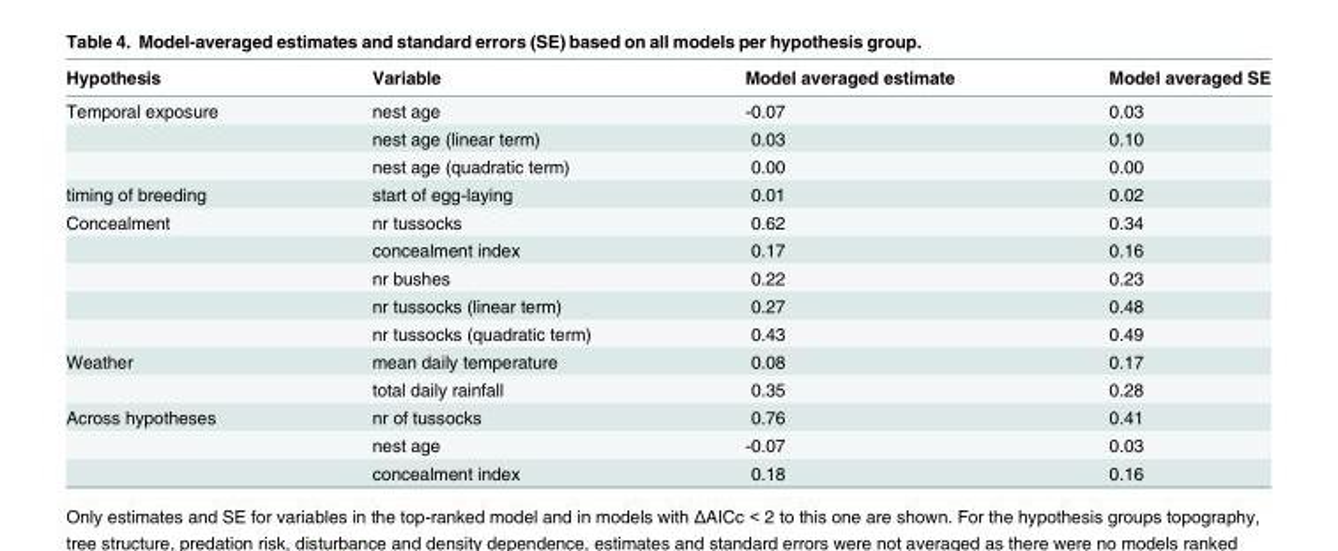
<table><thead><tr><td>Hypothesis</td><td>Variable</td><td>Model averaged estimate</td><td>Model averaged SE</td></tr></thead><tbody><tr><td rowspan="3">Temporal exposure</td><td>nest age</td><td>-0.07</td><td>0.03</td></tr><tr><td>nest age (linear term)</td><td>0.03</td><td>0.10</td></tr><tr><td>nest age (quadratic term)</td><td>0.00</td><td>0.00</td></tr><tr><td>timing of breeding</td><td>start of egg-laying</td><td>0.01</td><td>0.02</td></tr><tr><td rowspan="5">Concealment</td><td>nr tussocks</td><td>0.62</td><td>0.34</td></tr><tr><td>concealment index</td><td>0.17</td><td>0.16</td></tr><tr><td>nr bushes</td><td>0.22</td><td>0.23</td></tr><tr><td>nr tussocks (linear term)</td><td>0.27</td><td>0.48</td></tr><tr><td>nr tussocks (quadratic term)</td><td>0.43</td><td>0.49</td></tr><tr><td rowspan="2">Weather</td><td>mean daily temperature</td><td>0.08</td><td>0.17</td></tr><tr><td>total daily rainfall</td><td>0.35</td><td>0.28</td></tr><tr><td rowspan="3">Across hypotheses</td><td>nr of tussocks</td><td>0.76</td><td>0.41</td></tr><tr><td>nest age</td><td>-0.07</td><td>0.03</td></tr><tr><td>concealment index</td><td>0.18</td><td>0.16</td></tr></tbody></table>